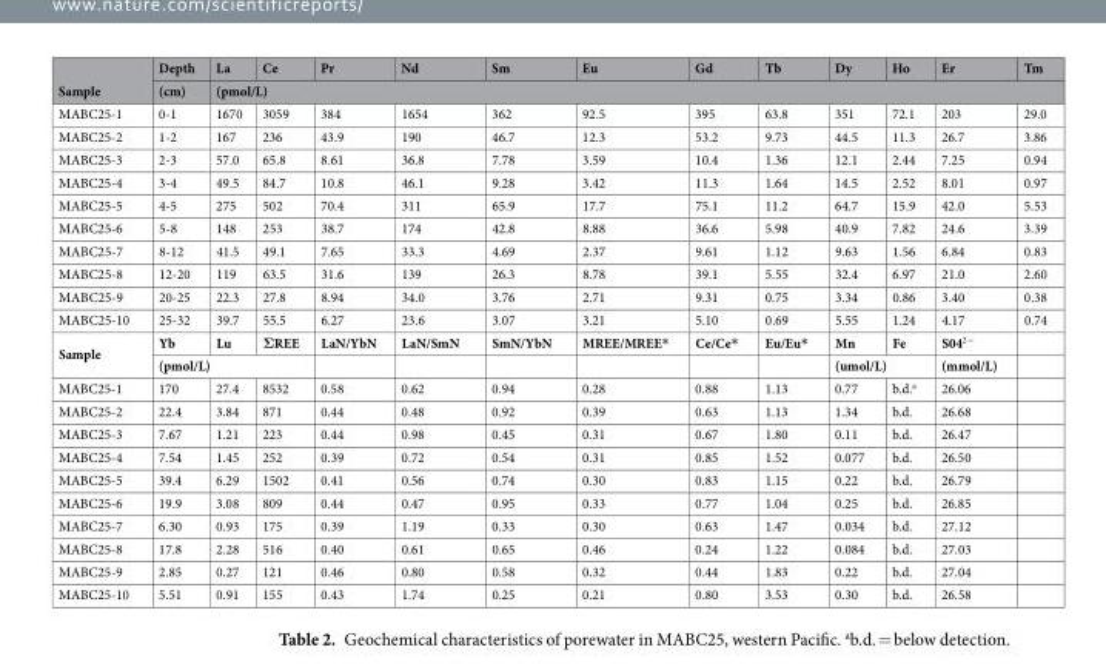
<table><thead><tr><td rowspan="2">Sample</td><td rowspan="2">Depth (cm)</td><td>La</td><td>Ce</td><td>Pr</td><td>Nd</td><td>Sm</td><td>Eu</td><td>Gd</td><td>Tb</td><td>Dy</td><td>Ho</td><td>Er</td><td>Tm</td></tr><tr><td colspan="12">(pmol/L)</td></tr></thead><tbody><tr><td>MABC25-1</td><td>0-1</td><td>1670</td><td>3059</td><td>384</td><td>1654</td><td>362</td><td>92.5</td><td>395</td><td>63.8</td><td>351</td><td>72.1</td><td>203</td><td>29.0</td></tr><tr><td>MABC25-2</td><td>1-2</td><td>167</td><td>236</td><td>43.9</td><td>190</td><td>46.7</td><td>12.3</td><td>53.2</td><td>9.73</td><td>44.5</td><td>11.3</td><td>26.7</td><td>3.86</td></tr><tr><td>MABC25-3</td><td>2-3</td><td>57.0</td><td>65.8</td><td>8.61</td><td>36.8</td><td>7.78</td><td>3.59</td><td>10.4</td><td>1.36</td><td>12.1</td><td>2.44</td><td>7.25</td><td>0.94</td></tr><tr><td>MABC25-4</td><td>3-4</td><td>49.5</td><td>84.7</td><td>10.8</td><td>46.1</td><td>9.28</td><td>3.42</td><td>11.3</td><td>1.64</td><td>14.5</td><td>2.52</td><td>8.01</td><td>0.97</td></tr><tr><td>MABC25-5</td><td>4-5</td><td>275</td><td>502</td><td>70.4</td><td>311</td><td>65.9</td><td>17.7</td><td>75.1</td><td>11.2</td><td>64.7</td><td>15.9</td><td>42.0</td><td>5.53</td></tr><tr><td>MABC25-6</td><td>5-8</td><td>148</td><td>253</td><td>38.7</td><td>174</td><td>42.8</td><td>8.88</td><td>36.6</td><td>5.98</td><td>40.9</td><td>7.82</td><td>24.6</td><td>3.39</td></tr><tr><td>MABC25-7</td><td>8-12</td><td>41.5</td><td>49.1</td><td>7.65</td><td>33.3</td><td>4.69</td><td>2.37</td><td>9.61</td><td>1.12</td><td>9.63</td><td>1.56</td><td>6.84</td><td>0.83</td></tr><tr><td>MABC25-8</td><td>12-20</td><td>119</td><td>63.5</td><td>31.6</td><td>139</td><td>26.3</td><td>8.78</td><td>39.1</td><td>5.55</td><td>32.4</td><td>6.97</td><td>21.0</td><td>2.60</td></tr><tr><td>MABC25-9</td><td>20-25</td><td>22.3</td><td>27.8</td><td>8.94</td><td>34.0</td><td>3.76</td><td>2.71</td><td>9.31</td><td>0.75</td><td>3.34</td><td>0.86</td><td>3.40</td><td>0.38</td></tr><tr><td>MABC25-10</td><td>25-32</td><td>39.7</td><td>55.5</td><td>6.27</td><td>23.6</td><td>3.07</td><td>3.21</td><td>5.10</td><td>0.69</td><td>5.55</td><td>1.24</td><td>4.17</td><td>0.74</td></tr><tr><td rowspan="2">Sample</td><td>Yb</td><td>Lu</td><td>ΣREE</td><td>LaN/YbN</td><td>LaN/SmN</td><td>SmN/YbN</td><td>MREE/MREE*</td><td>Ce/Ce*</td><td>Eu/Eu*</td><td>Mn</td><td>Fe</td><td>S04<sup>2−</sup></td><td></td></tr><tr><td colspan="3">(pmol/L)</td><td></td><td></td><td></td><td></td><td></td><td></td><td colspan="2">(umol/L)</td><td>(mmol/L)</td><td></td></tr><tr><td>MABC25-1</td><td>170</td><td>27.4</td><td>8532</td><td>0.58</td><td>0.62</td><td>0.94</td><td>0.28</td><td>0.88</td><td>1.13</td><td>0.77</td><td>b.d.<sup>a</sup></td><td>26.06</td><td></td></tr><tr><td>MABC25-2</td><td>22.4</td><td>3.84</td><td>871</td><td>0.44</td><td>0.48</td><td>0.92</td><td>0.39</td><td>0.63</td><td>1.13</td><td>1.34</td><td>b.d.</td><td>26.68</td><td></td></tr><tr><td>MABC25-3</td><td>7.67</td><td>1.21</td><td>223</td><td>0.44</td><td>0.98</td><td>0.45</td><td>0.31</td><td>0.67</td><td>1.80</td><td>0.11</td><td>b.d.</td><td>26.47</td><td></td></tr><tr><td>MABC25-4</td><td>7.54</td><td>1.45</td><td>252</td><td>0.39</td><td>0.72</td><td>0.54</td><td>0.31</td><td>0.85</td><td>1.52</td><td>0.077</td><td>b.d.</td><td>26.50</td><td></td></tr><tr><td>MABC25-5</td><td>39.4</td><td>6.29</td><td>1502</td><td>0.41</td><td>0.56</td><td>0.74</td><td>0.30</td><td>0.83</td><td>1.15</td><td>0.22</td><td>b.d.</td><td>26.79</td><td></td></tr><tr><td>MABC25-6</td><td>19.9</td><td>3.08</td><td>809</td><td>0.44</td><td>0.47</td><td>0.95</td><td>0.33</td><td>0.77</td><td>1.04</td><td>0.25</td><td>b.d.</td><td>26.85</td><td></td></tr><tr><td>MABC25-7</td><td>6.30</td><td>0.93</td><td>175</td><td>0.39</td><td>1.19</td><td>0.33</td><td>0.30</td><td>0.63</td><td>1.47</td><td>0.034</td><td>b.d.</td><td>27.12</td><td></td></tr><tr><td>MABC25-8</td><td>17.8</td><td>2.28</td><td>516</td><td>0.40</td><td>0.61</td><td>0.65</td><td>0.46</td><td>0.24</td><td>1.22</td><td>0.084</td><td>b.d.</td><td>27.03</td><td></td></tr><tr><td>MABC25-9</td><td>2.85</td><td>0.27</td><td>121</td><td>0.46</td><td>0.80</td><td>0.58</td><td>0.32</td><td>0.44</td><td>1.83</td><td>0.22</td><td>b.d.</td><td>27.04</td><td></td></tr><tr><td>MABC25-10</td><td>5.51</td><td>0.91</td><td>155</td><td>0.43</td><td>1.74</td><td>0.25</td><td>0.21</td><td>0.80</td><td>3.53</td><td>0.30</td><td>b.d.</td><td>26.58</td><td></td></tr></tbody></table>